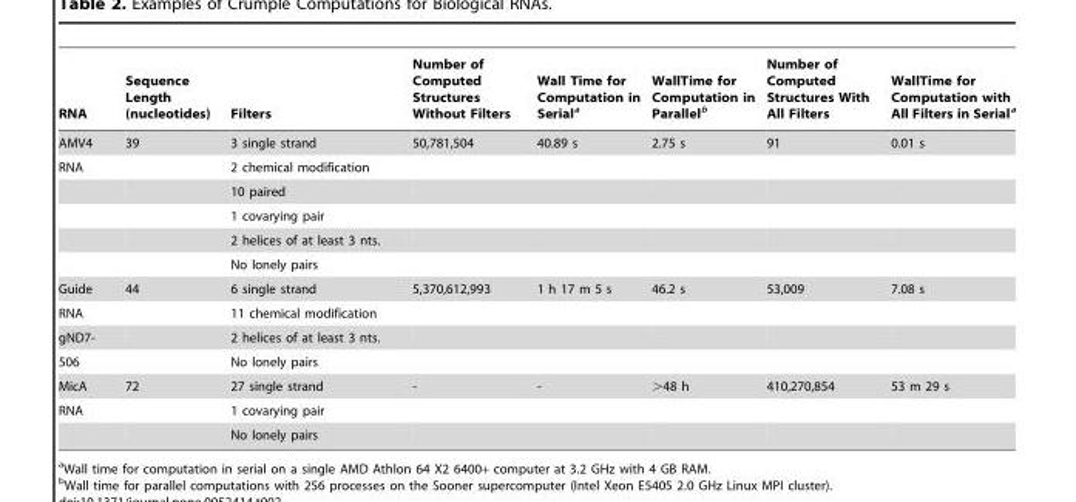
<table><thead><tr><td>RNA</td><td>Sequence Length (nucleotides)</td><td>Filters</td><td>Number of Computed Structures Without Filters</td><td>Wall Time for Computation in Serial<sup>a</sup></td><td>WallTime for Computation in Parallel<sup>b</sup></td><td>Number of Computed Structures With All Filters</td><td>WallTime for Computation with All Filters in Serial<sup>a</sup></td></tr></thead><tbody><tr><td>AMV4</td><td>39</td><td>3 single strand</td><td>50,781,504</td><td>40.89 s</td><td>2.75 s</td><td>91</td><td>0.01 s</td></tr><tr><td rowspan="5">RNA</td><td></td><td>2 chemical modification</td><td></td><td></td><td></td><td></td><td></td></tr><tr><td></td><td>10 paired</td><td></td><td></td><td></td><td></td><td></td></tr><tr><td></td><td>1 covarying pair</td><td></td><td></td><td></td><td></td><td></td></tr><tr><td></td><td>2 helices of at least 3 nts.</td><td></td><td></td><td></td><td></td><td></td></tr><tr><td></td><td>No lonely pairs</td><td></td><td></td><td></td><td></td><td></td></tr><tr><td>Guide</td><td>44</td><td>6 single strand</td><td>5,370,612,993</td><td>1 h 17 m 5 s</td><td>46.2 s</td><td>53,009</td><td>7.08 s</td></tr><tr><td>RNA</td><td></td><td>11 chemical modification</td><td></td><td></td><td></td><td></td><td></td></tr><tr><td>gND7-</td><td></td><td>2 helices of at least 3 nts.</td><td></td><td></td><td></td><td></td><td></td></tr><tr><td>506</td><td></td><td>No lonely pairs</td><td></td><td></td><td></td><td></td><td></td></tr><tr><td>MicA</td><td>72</td><td>27 single strand</td><td>-</td><td>-</td><td>&gt;48 h</td><td>410,270,854</td><td>53 m 29 s</td></tr><tr><td rowspan="2">RNA</td><td></td><td>1 covarying pair</td><td></td><td></td><td></td><td></td><td></td></tr><tr><td></td><td>No lonely pairs</td><td></td><td></td><td></td><td></td><td></td></tr></tbody></table>